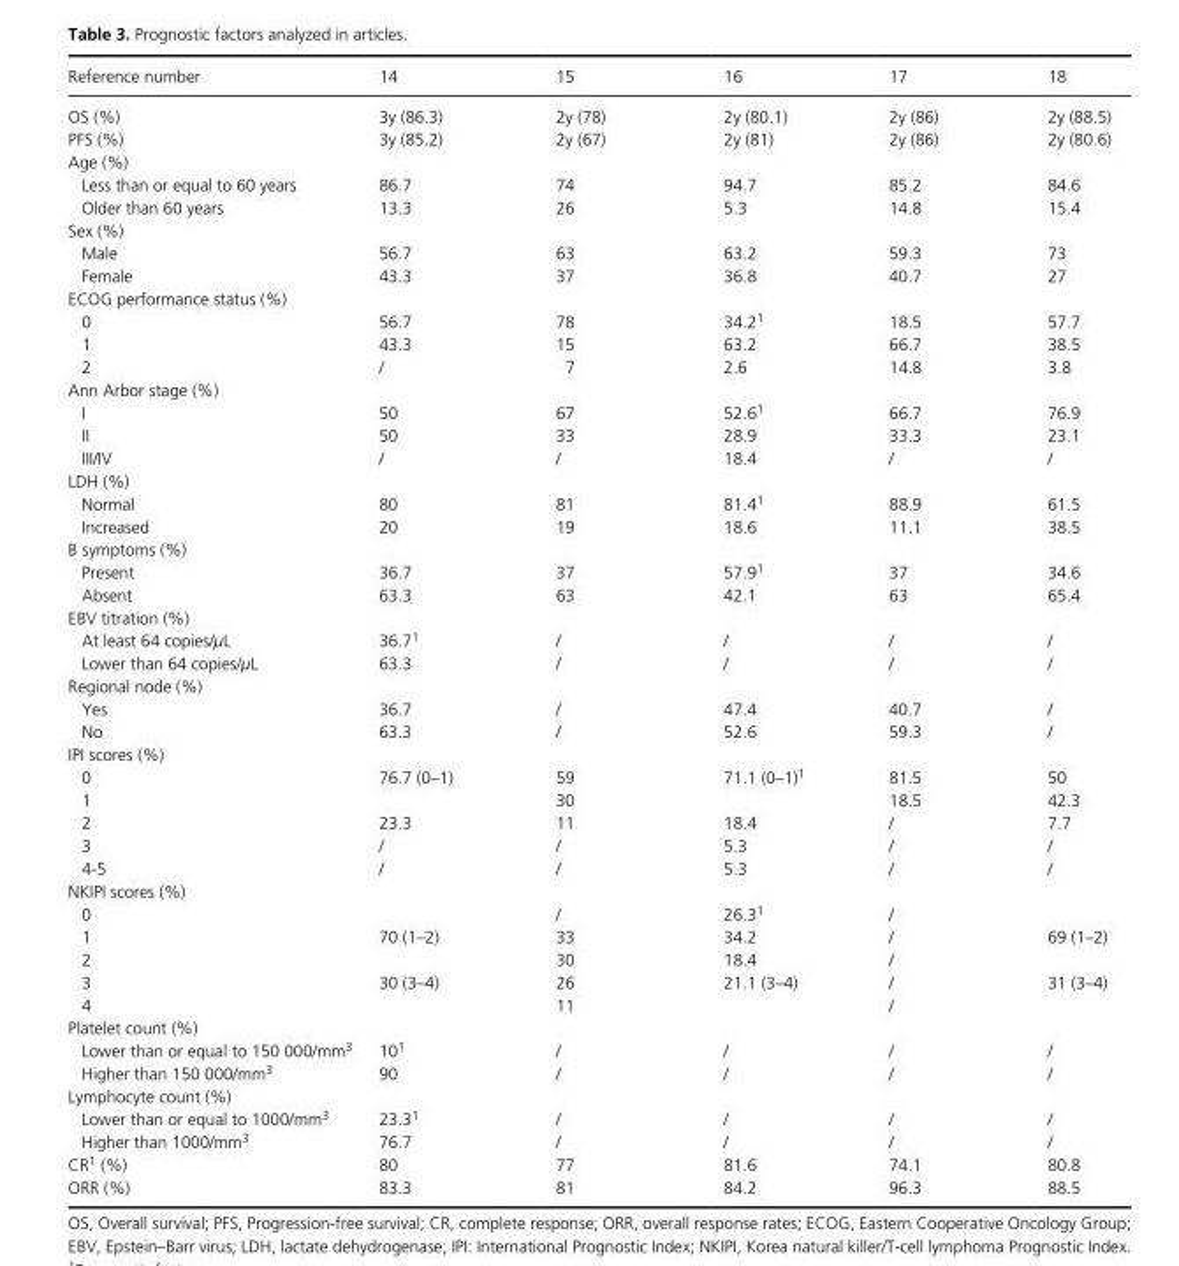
<table><thead><tr><td>Reference number</td><td>14</td><td>15</td><td>16</td><td>17</td><td>18</td></tr></thead><tbody><tr><td>OS (%)</td><td>3y (86.3)</td><td>2y (78)</td><td>2y (80.1)</td><td>2y (86)</td><td>2y (88.5)</td></tr><tr><td>PFS (%)</td><td>3y (85.2)</td><td>2y (67)</td><td>2y (81)</td><td>2y (86)</td><td>2y (80.6)</td></tr><tr><td colspan="6">Age (%)</td></tr><tr><td>Less than or equal to 60 years</td><td>86.7</td><td>74</td><td>94.7</td><td>85.2</td><td>84.6</td></tr><tr><td>Older than 60 years</td><td>13.3</td><td>26</td><td>5.3</td><td>14.8</td><td>15.4</td></tr><tr><td colspan="6">Sex (%)</td></tr><tr><td>Male</td><td>56.7</td><td>63</td><td>63.2</td><td>59.3</td><td>73</td></tr><tr><td>Female</td><td>43.3</td><td>37</td><td>36.8</td><td>40.7</td><td>27</td></tr><tr><td colspan="6">ECOG performance status (%)</td></tr><tr><td>0</td><td>56.7</td><td>78</td><td>34.21</td><td>18.5</td><td>57.7</td></tr><tr><td>1</td><td>43.3</td><td>15</td><td>63.2</td><td>66.7</td><td>38.5</td></tr><tr><td>2</td><td>/</td><td>7</td><td>2.6</td><td>14.8</td><td>3.8</td></tr><tr><td colspan="6">Ann Arbor stage (%)</td></tr><tr><td>I</td><td>50</td><td>67</td><td>52.61</td><td>66.7</td><td>76.9</td></tr><tr><td>II</td><td>50</td><td>33</td><td>28.9</td><td>33.3</td><td>23.1</td></tr><tr><td>III/IV</td><td>/</td><td>/</td><td>18.4</td><td>/</td><td>/</td></tr><tr><td colspan="6">LDH (%)</td></tr><tr><td>Normal</td><td>80</td><td>81</td><td>81.41</td><td>88.9</td><td>61.5</td></tr><tr><td>Increased</td><td>20</td><td>19</td><td>18.6</td><td>11.1</td><td>38.5</td></tr><tr><td colspan="6">B symptoms (%)</td></tr><tr><td>Present</td><td>36.7</td><td>37</td><td>57.91</td><td>37</td><td>34.6</td></tr><tr><td>Absent</td><td>63.3</td><td>63</td><td>42.1</td><td>63</td><td>65.4</td></tr><tr><td colspan="6">EBV titration (%)</td></tr><tr><td>At least 64 copies/μL</td><td>36.71</td><td>/</td><td>/</td><td>/</td><td>/</td></tr><tr><td>Lower than 64 copies/μL</td><td>63.3</td><td>/</td><td>/</td><td>/</td><td>/</td></tr><tr><td colspan="6">Regional node (%)</td></tr><tr><td>Yes</td><td>36.7</td><td>/</td><td>47.4</td><td>40.7</td><td>/</td></tr><tr><td>No</td><td>63.3</td><td>/</td><td>52.6</td><td>59.3</td><td>/</td></tr><tr><td colspan="6">IPI scores (%)</td></tr><tr><td>0</td><td>76.7 (0–1)</td><td>59</td><td>71.1 (0–1)1</td><td>81.5</td><td>50</td></tr><tr><td>1</td><td></td><td>30</td><td></td><td>18.5</td><td>42.3</td></tr><tr><td>2</td><td>23.3</td><td>11</td><td>18.4</td><td>/</td><td>7.7</td></tr><tr><td>3</td><td>/</td><td>/</td><td>5.3</td><td>/</td><td>/</td></tr><tr><td>4- 5</td><td>/</td><td>/</td><td>5.3</td><td>/</td><td>/</td></tr><tr><td colspan="6">NKIPI scores (%)</td></tr><tr><td>0</td><td></td><td>/</td><td>26.31</td><td>/</td><td></td></tr><tr><td>1</td><td>70 (1–2)</td><td>33</td><td>34.2</td><td>/</td><td>69 (1–2)</td></tr><tr><td>2</td><td></td><td>30</td><td>18.4</td><td>/</td><td></td></tr><tr><td>3</td><td>30 (3–4)</td><td>26</td><td>21.1 (3–4)</td><td>/</td><td>31 (3–4)</td></tr><tr><td>4</td><td></td><td>11</td><td></td><td>/</td><td></td></tr><tr><td colspan="6">Platelet count (%)</td></tr><tr><td>Lower than or equal to 150 000/mm<sup>3</sup></td><td>101</td><td>/</td><td>/</td><td>/</td><td>/</td></tr><tr><td>Higher than 150 000/mm<sup>3</sup></td><td>90</td><td>/</td><td>/</td><td>/</td><td>/</td></tr><tr><td colspan="6">Lymphocyte count (%)</td></tr><tr><td>Lower than or equal to 1000/mm<sup>3</sup></td><td>23.31</td><td>/</td><td>/</td><td>/</td><td>/</td></tr><tr><td>Higher than 1000/mm<sup>3</sup></td><td>76.7</td><td>/</td><td>/</td><td>/</td><td>/</td></tr><tr><td>CR1 (%)</td><td>80</td><td>77</td><td>81.6</td><td>74.1</td><td>80.8</td></tr><tr><td>ORR (%)</td><td>83.3</td><td>81</td><td>84.2</td><td>96.3</td><td>88.5</td></tr></tbody></table>